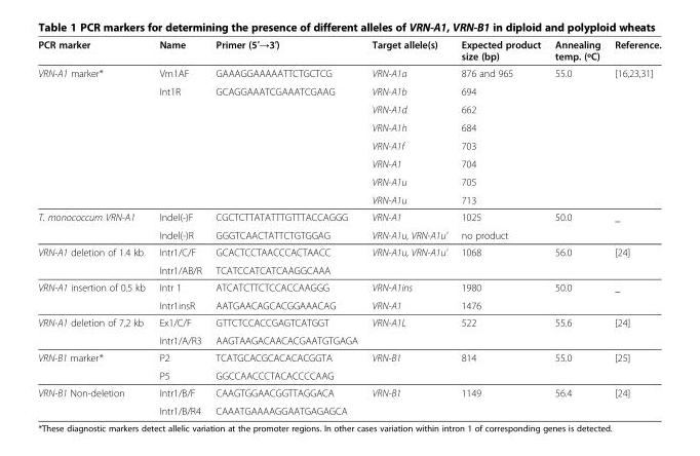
<table><thead><tr><td>PCR marker</td><td>Name</td><td>Primer (5′→3′)</td><td>Target allele(s)</td><td>Expected product size (bp)</td><td>Annealing temp. (ºC)</td><td>Reference.</td></tr></thead><tbody><tr><td rowspan="8">VRN-A1 marker*</td><td>Vrn1AF</td><td>GAAAGGAAAAATTCTGCTCG</td><td>VRN-A1a</td><td>876 and 965</td><td>55.0</td><td>[16,23,31]</td></tr><tr><td>Int1R</td><td>GCAGGAAATCGAAATCGAAG</td><td>VRN-A1b</td><td>694</td><td></td><td></td></tr><tr><td></td><td></td><td>VRN-A1d</td><td>662</td><td></td><td></td></tr><tr><td></td><td></td><td>VRN-A1h</td><td>684</td><td></td><td></td></tr><tr><td></td><td></td><td>VRN-A1f</td><td>703</td><td></td><td></td></tr><tr><td></td><td></td><td>VRN-A1</td><td>704</td><td></td><td></td></tr><tr><td></td><td></td><td>VRN-A1u</td><td>705</td><td></td><td></td></tr><tr><td></td><td></td><td>VRN-A1u</td><td>713</td><td></td><td></td></tr><tr><td rowspan="2">T. monococcum VRN-A1</td><td>Indel(-)F</td><td>CGCTCTTATATTTGTTTACCAGGG</td><td>VRN-A1</td><td>1025</td><td>50.0</td><td>_</td></tr><tr><td>Indel(-)R</td><td>GGGTCAACTATTCTGTGGAG</td><td>VRN-A1u, VRN-A1u’</td><td>no product</td><td></td><td></td></tr><tr><td rowspan="2">VRN-A1 deletion of 1.4 kb</td><td>Intr1/C/F</td><td>GCACTCCTAACCCACTAACC</td><td>VRN-A1u, VRN-A1u’</td><td>1068</td><td>56.0</td><td>[24]</td></tr><tr><td>Intr1/AB/R</td><td>TCATCCATCATCAAGGCAAA</td><td></td><td></td><td></td><td></td></tr><tr><td rowspan="2">VRN-A1 insertion of 0.5 kb</td><td>Intr 1</td><td>ATCATCTTCTCCACCAAGGG</td><td>VRN-A1ins</td><td>1980</td><td>50.0</td><td>_</td></tr><tr><td>Intr1insR</td><td>AATGAACAGCACGGAAACAG</td><td>VRN-A1</td><td>1476</td><td></td><td></td></tr><tr><td rowspan="2">VRN-A1 deletion of 7,2 kb</td><td>Ex1/C/F</td><td>GTTCTCCACCGAGTCATGGT</td><td>VRN-A1L</td><td>522</td><td>55.6</td><td>[24]</td></tr><tr><td>Intr1/A/R3</td><td>AAGTAAGACAACACGAATGTGAGA</td><td></td><td></td><td></td><td></td></tr><tr><td rowspan="2">VRN-B1 marker*</td><td>P2</td><td>TCATGCACGCACACACGGTA</td><td>VRN-B1</td><td>814</td><td>55.0</td><td>[25]</td></tr><tr><td>P5</td><td>GGCCAACCCTACACCCCAAG</td><td></td><td></td><td></td><td></td></tr><tr><td rowspan="2">VRN-B1 Non-deletion</td><td>Intr1/B/F</td><td>CAAGTGGAACGGTTAGGACA</td><td>VRN-B1</td><td>1149</td><td>56.4</td><td>[24]</td></tr><tr><td>Intr1/B/R4</td><td>CAAATGAAAAGGAATGAGAGCA</td><td></td><td></td><td></td><td></td></tr></tbody></table>